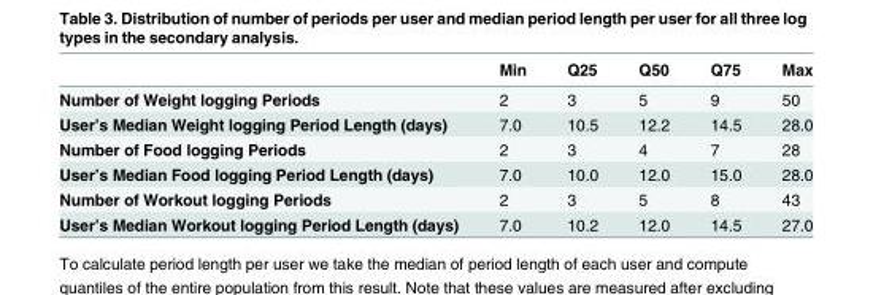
<table><thead><tr><td></td><td>Min</td><td>Q25</td><td>Q50</td><td>Q75</td><td>Max</td></tr></thead><tbody><tr><td>Number of Weight logging Periods</td><td>2</td><td>3</td><td>5</td><td>9</td><td>50</td></tr><tr><td>User’s Median Weight logging Period Length (days)</td><td>7.0</td><td>10.5</td><td>12.2</td><td>14.5</td><td>28.0</td></tr><tr><td>Number of Food logging Periods</td><td>2</td><td>3</td><td>4</td><td>7</td><td>28</td></tr><tr><td>User’s Median Food logging Period Length (days)</td><td>7.0</td><td>10.0</td><td>12.0</td><td>15.0</td><td>28.0</td></tr><tr><td>Number of Workout logging Periods</td><td>2</td><td>3</td><td>5</td><td>8</td><td>43</td></tr><tr><td>User’s Median Workout logging Period Length (days)</td><td>7.0</td><td>10.2</td><td>12.0</td><td>14.5</td><td>27.0</td></tr></tbody></table>